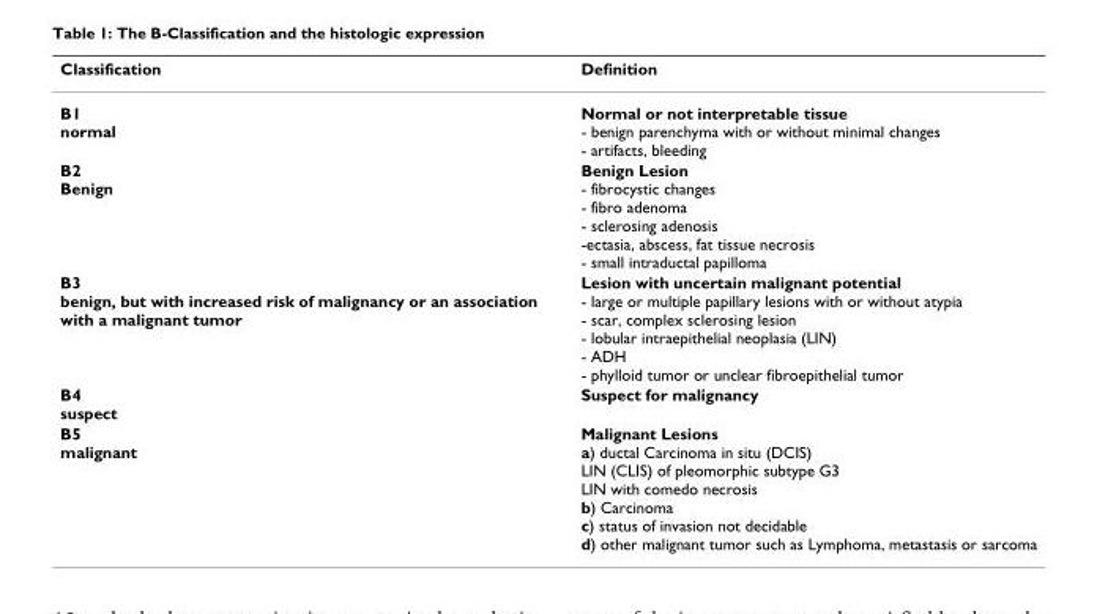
<table><thead><tr><td>Classification</td><td>Definition</td></tr></thead><tbody><tr><td>B1 normal</td><td>Normal or not interpretable tissue - benign parenchyma with or without minimal changes - artifacts, bleeding</td></tr><tr><td>B2 Benign</td><td>Benign Lesion - fibrocystic changes - fibro adenoma - sclerosing adenosis -ectasia, abscess, fat tissue necrosis - small intraductal papilloma</td></tr><tr><td>B3 benign, but with increased risk of malignancy or an association with a malignant tumor</td><td>Lesion with uncertain malignant potential - large or multiple papillary lesions with or without atypia - scar, complex sclerosing lesion - lobular intraepithelial neoplasia (LIN) - ADH - phylloid tumor or unclear fibroepithelial tumor</td></tr><tr><td>B4 suspect</td><td>Suspect for malignancy</td></tr><tr><td>B5 malignant</td><td>Malignant Lesions a) ductal Carcinoma in situ (DCIS) LIN (CLIS) of pleomorphic subtype G3 LIN with comedo necrosis b) Carcinoma c) status of invasion not decidable d) other malignant tumor such as Lymphoma, metastasis or sarcoma</td></tr></tbody></table>